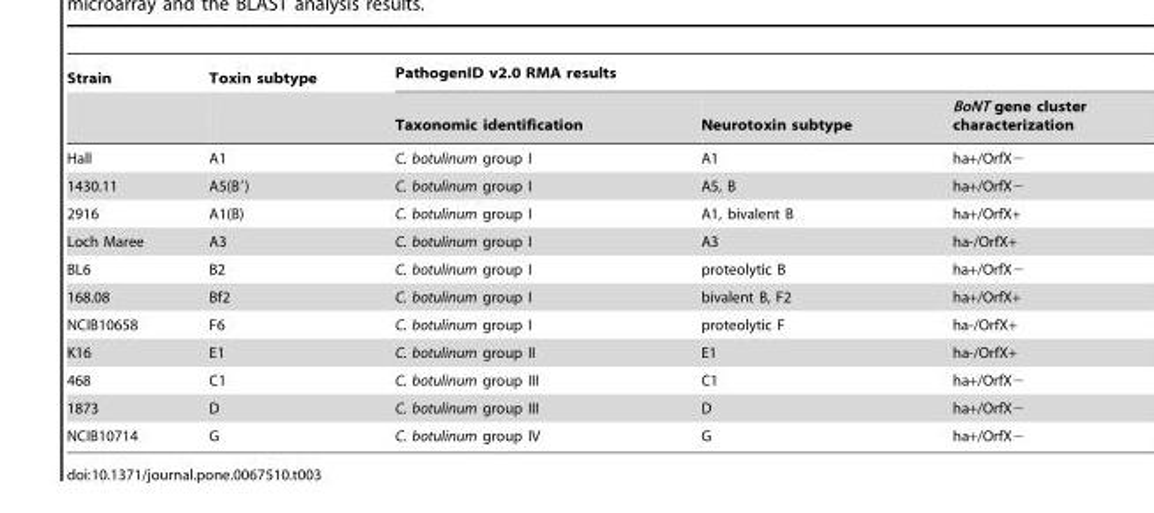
<table><thead><tr><td rowspan="2">Strain</td><td rowspan="2">Toxin subtype</td><td colspan="3">PathogenID v2.0 RMA results</td></tr><tr><td>Taxonomic identification</td><td>Neurotoxin subtype</td><td>BoNT gene cluster characterization</td></tr></thead><tbody><tr><td>Hall</td><td>A1</td><td>C. botulinum group I</td><td>A1</td><td>ha+/OrfX−</td></tr><tr><td>1430.11</td><td>A5(B′)</td><td>C. botulinum group I</td><td>A5, B</td><td>ha+/OrfX−</td></tr><tr><td>2916</td><td>A1(B)</td><td>C. botulinum group I</td><td>A1, bivalent B</td><td>ha+/OrfX+</td></tr><tr><td>Loch Maree</td><td>A3</td><td>C. botulinum group I</td><td>A3</td><td>ha-/OrfX+</td></tr><tr><td>BL6</td><td>B2</td><td>C. botulinum group I</td><td>proteolytic B</td><td>ha+/OrfX−</td></tr><tr><td>168.08</td><td>Bf2</td><td>C. botulinum group I</td><td>bivalent B, F2</td><td>ha+/OrfX+</td></tr><tr><td>NCIB10658</td><td>F6</td><td>C. botulinum group I</td><td>proteolytic F</td><td>ha-/OrfX+</td></tr><tr><td>K16</td><td>E1</td><td>C. botulinum group II</td><td>E1</td><td>ha-/OrfX+</td></tr><tr><td>468</td><td>C1</td><td>C. botulinum group III</td><td>C1</td><td>ha+/OrfX−</td></tr><tr><td>1873</td><td>D</td><td>C. botulinum group III</td><td>D</td><td>ha+/OrfX−</td></tr><tr><td>NCIB10714</td><td>G</td><td>C. botulinum group IV</td><td>G</td><td>ha+/OrfX−</td></tr></tbody></table>